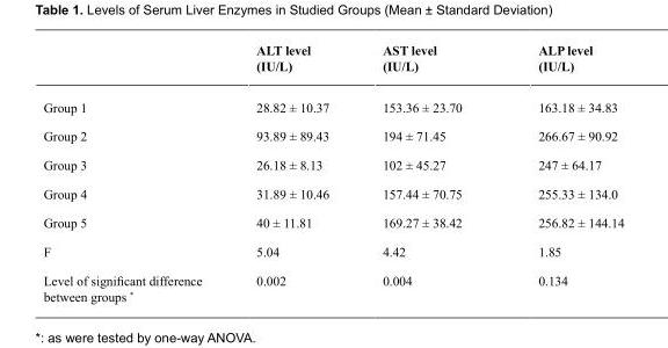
<table><thead><tr><td></td><td>ALT level (IU/L)</td><td>AST level (IU/L)</td><td>ALP level (IU/L)</td></tr></thead><tbody><tr><td>Group 1</td><td>28.82 ± 10.37</td><td>153.36 ± 23.70</td><td>163.18 ± 34.83</td></tr><tr><td>Group 2</td><td>93.89 ± 89.43</td><td>194 ± 71.45</td><td>266.67 ± 90.92</td></tr><tr><td>Group 3</td><td>26.18 ± 8.13</td><td>102 ± 45.27</td><td>247 ± 64.17</td></tr><tr><td>Group 4</td><td>31.89 ± 10.46</td><td>157.44 ± 70.75</td><td>255.33 ± 134.0</td></tr><tr><td>Group 5</td><td>40 ± 11.81</td><td>169.27 ± 38.42</td><td>256.82 ± 144.14</td></tr><tr><td>F</td><td>5.04</td><td>4.42</td><td>1.85</td></tr><tr><td>Level of significant difference between groups *</td><td>0.002</td><td>0.004</td><td>0.134</td></tr></tbody></table>